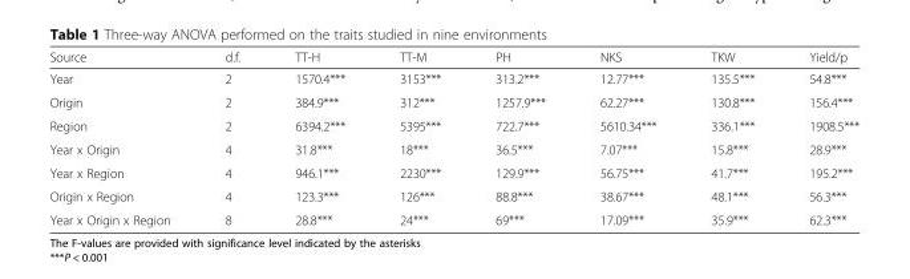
<table><thead><tr><td>Source</td><td>d.f.</td><td>TT-H</td><td>TT-M</td><td>PH</td><td>NKS</td><td>TKW</td><td>Yield/p</td></tr></thead><tbody><tr><td>Year</td><td>2</td><td>1570.4***</td><td>3153***</td><td>313.2***</td><td>12.77***</td><td>135.5***</td><td>54.8***</td></tr><tr><td>Origin</td><td>2</td><td>384.9***</td><td>312***</td><td>1257.9***</td><td>62.27***</td><td>130.8***</td><td>156.4***</td></tr><tr><td>Region</td><td>2</td><td>6394.2***</td><td>5395***</td><td>722.7***</td><td>5610.34***</td><td>336.1***</td><td>1908.5***</td></tr><tr><td>Year x Origin</td><td>4</td><td>31.8***</td><td>18***</td><td>36.5***</td><td>7.07***</td><td>15.8***</td><td>28.9***</td></tr><tr><td>Year x Region</td><td>4</td><td>946.1***</td><td>2230***</td><td>129.9***</td><td>56.75***</td><td>41.7***</td><td>195.2***</td></tr><tr><td>Origin x Region</td><td>4</td><td>123.3***</td><td>126***</td><td>88.8***</td><td>38.67***</td><td>48.1***</td><td>56.3***</td></tr><tr><td>Year x Origin x Region</td><td>8</td><td>28.8***</td><td>24***</td><td>69***</td><td>17.09***</td><td>35.9***</td><td>62.3***</td></tr></tbody></table>